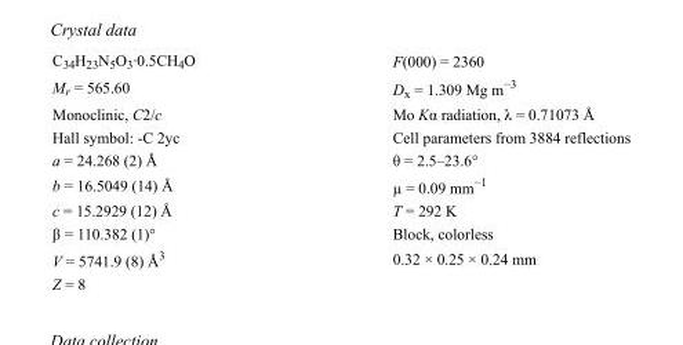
<table><tbody><tr><td>C<sub>34</sub>H<sub>23</sub>N<sub>5</sub>O<sub>3</sub>·0.5CH<sub>4</sub>O</td><td>F(000) = 2360</td></tr><tr><td>M<sub>r</sub> = 565.60</td><td>D<sub>x</sub> = 1.309 Mg m<sup>−3</sup></td></tr><tr><td>Monoclinic, C2/c</td><td>Mo Kα radiation, λ = 0.71073 Å</td></tr><tr><td>Hall symbol: -C 2yc</td><td>Cell parameters from 3884 reflections</td></tr><tr><td>a = 24.268 (2) Å</td><td>θ = 2.5–23.6°</td></tr><tr><td>b = 16.5049 (14) Å</td><td>µ = 0.09 mm<sup>−1</sup></td></tr><tr><td>c = 15.2929 (12) Å</td><td>T = 292 K</td></tr><tr><td>β = 110.382 (1)°</td><td>Block, colorless</td></tr><tr><td>V = 5741.9 (8) Å<sup>3</sup></td><td>0.32 × 0.25 × 0.24 mm</td></tr><tr><td>Z = 8</td><td></td></tr></tbody></table>